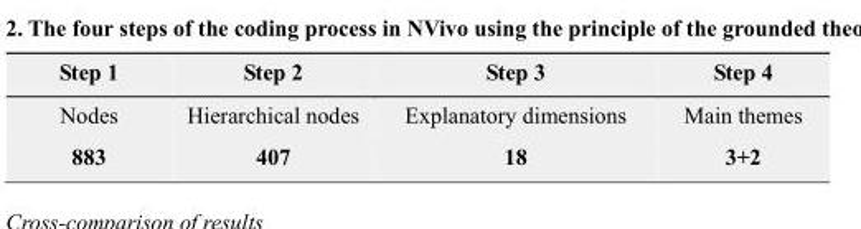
<table><thead><tr><td>Step 1</td><td>Step 2</td><td>Step 3</td><td>Step 4</td></tr></thead><tbody><tr><td>Nodes</td><td>Hierarchical nodes</td><td>Explanatory dimensions</td><td>Main themes</td></tr><tr><td>883</td><td>407</td><td>18</td><td>3+2</td></tr></tbody></table>